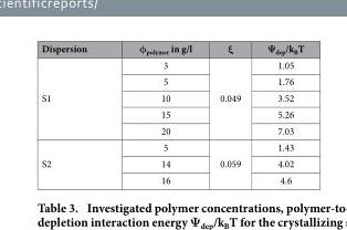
<table><thead><tr><td>Dispersion</td><td>φ<sub>polymer</sub> in g/l</td><td>ξ</td><td>Ψ<sub>dep</sub>/k<sub>B</sub>T</td></tr></thead><tbody><tr><td rowspan="5">S1</td><td>3</td><td rowspan="5">0.049</td><td>1.05</td></tr><tr><td>5</td><td>1.76</td></tr><tr><td>10</td><td>3.52</td></tr><tr><td>15</td><td>5.26</td></tr><tr><td>20</td><td>7.03</td></tr><tr><td rowspan="3">S2</td><td>5</td><td rowspan="3">0.059</td><td>1.43</td></tr><tr><td>14</td><td>4.02</td></tr><tr><td>16</td><td>4.6</td></tr></tbody></table>